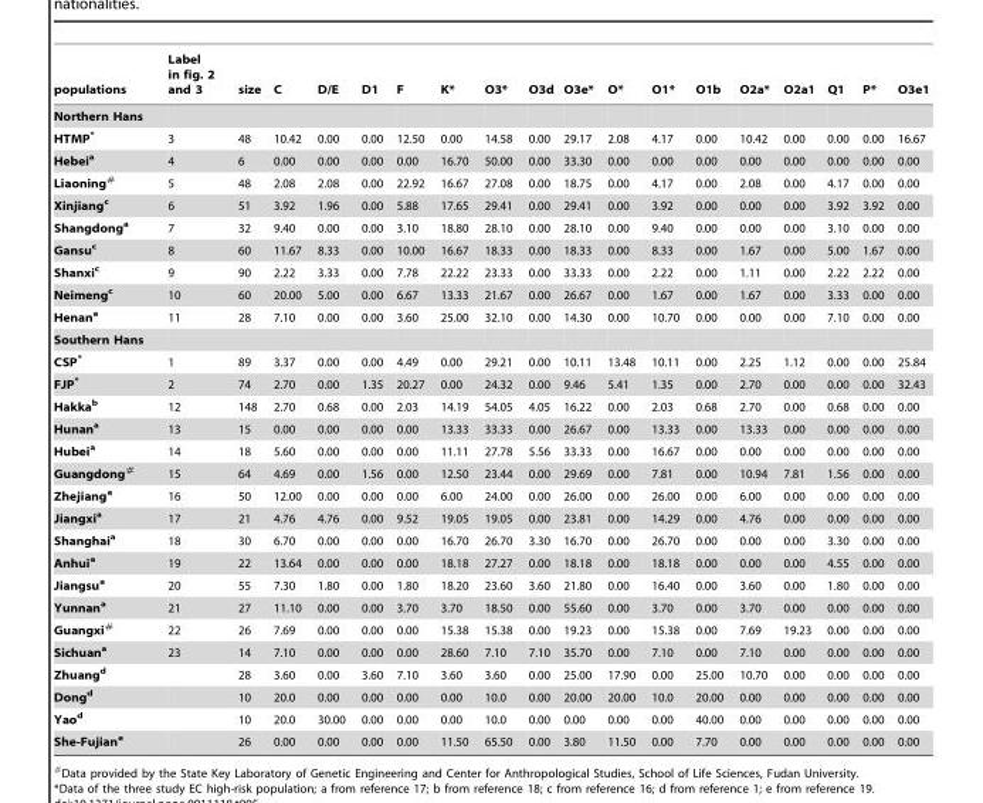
<table><thead><tr><td>populations</td><td>Label in fig. 2 and 3</td><td>size</td><td>C</td><td>D/E</td><td>D1</td><td>F</td><td>K*</td><td>O3*</td><td>O3d</td><td>O3e*</td><td>O*</td><td>O1*</td><td>O1b</td><td>O2a*</td><td>O2a1</td><td>Q1</td><td>P*</td><td>O3e1</td></tr></thead><tbody><tr><td colspan="19">Northern Hans</td></tr><tr><td>HTMP*</td><td>3</td><td>48</td><td>10.42</td><td>0.00</td><td>0.00</td><td>12.50</td><td>0.00</td><td>14.58</td><td>0.00</td><td>29.17</td><td>2.08</td><td>4.17</td><td>0.00</td><td>10.42</td><td>0.00</td><td>0.00</td><td>0.00</td><td>16.67</td></tr><tr><td>Hebei<sup>a</sup></td><td>4</td><td>6</td><td>0.00</td><td>0.00</td><td>0.00</td><td>0.00</td><td>16.70</td><td>50.00</td><td>0.00</td><td>33.30</td><td>0.00</td><td>0.00</td><td>0.00</td><td>0.00</td><td>0.00</td><td>0.00</td><td>0.00</td><td>0.00</td></tr><tr><td>Liaoning#</td><td>5</td><td>48</td><td>2.08</td><td>2.08</td><td>0.00</td><td>22.92</td><td>16.67</td><td>27.08</td><td>0.00</td><td>18.75</td><td>0.00</td><td>4.17</td><td>0.00</td><td>2.08</td><td>0.00</td><td>4.17</td><td>0.00</td><td>0.00</td></tr><tr><td>Xinjiang<sup>c</sup></td><td>6</td><td>51</td><td>3.92</td><td>1.96</td><td>0.00</td><td>5.88</td><td>17.65</td><td>29.41</td><td>0.00</td><td>29.41</td><td>0.00</td><td>3.92</td><td>0.00</td><td>0.00</td><td>0.00</td><td>3.92</td><td>3.92</td><td>0.00</td></tr><tr><td>Shangdong<sup>a</sup></td><td>7</td><td>32</td><td>9.40</td><td>0.00</td><td>0.00</td><td>3.10</td><td>18.80</td><td>28.10</td><td>0.00</td><td>28.10</td><td>0.00</td><td>9.40</td><td>0.00</td><td>0.00</td><td>0.00</td><td>3.10</td><td>0.00</td><td>0.00</td></tr><tr><td>Gansu<sup>c</sup></td><td>8</td><td>60</td><td>11.67</td><td>8.33</td><td>0.00</td><td>10.00</td><td>16.67</td><td>18.33</td><td>0.00</td><td>18.33</td><td>0.00</td><td>8.33</td><td>0.00</td><td>1.67</td><td>0.00</td><td>5.00</td><td>1.67</td><td>0.00</td></tr><tr><td>Shanxi<sup>c</sup></td><td>9</td><td>90</td><td>2.22</td><td>3.33</td><td>0.00</td><td>7.78</td><td>22.22</td><td>23.33</td><td>0.00</td><td>33.33</td><td>0.00</td><td>2.22</td><td>0.00</td><td>1.11</td><td>0.00</td><td>2.22</td><td>2.22</td><td>0.00</td></tr><tr><td>Neimeng<sup>c</sup></td><td>10</td><td>60</td><td>20.00</td><td>5.00</td><td>0.00</td><td>6.67</td><td>13.33</td><td>21.67</td><td>0.00</td><td>26.67</td><td>0.00</td><td>1.67</td><td>0.00</td><td>1.67</td><td>0.00</td><td>3.33</td><td>0.00</td><td>0.00</td></tr><tr><td>Henan<sup>a</sup></td><td>11</td><td>28</td><td>7.10</td><td>0.00</td><td>0.00</td><td>3.60</td><td>25.00</td><td>32.10</td><td>0.00</td><td>14.30</td><td>0.00</td><td>10.70</td><td>0.00</td><td>0.00</td><td>0.00</td><td>7.10</td><td>0.00</td><td>0.00</td></tr><tr><td colspan="19">Southern Hans</td></tr><tr><td>CSP*</td><td>1</td><td>89</td><td>3.37</td><td>0.00</td><td>0.00</td><td>4.49</td><td>0.00</td><td>29.21</td><td>0.00</td><td>10.11</td><td>13.48</td><td>10.11</td><td>0.00</td><td>2.25</td><td>1.12</td><td>0.00</td><td>0.00</td><td>25.84</td></tr><tr><td>FJP*</td><td>2</td><td>74</td><td>2.70</td><td>0.00</td><td>1.35</td><td>20.27</td><td>0.00</td><td>24.32</td><td>0.00</td><td>9.46</td><td>5.41</td><td>1.35</td><td>0.00</td><td>2.70</td><td>0.00</td><td>0.00</td><td>0.00</td><td>32.43</td></tr><tr><td>Hakka<sup>b</sup></td><td>12</td><td>148</td><td>2.70</td><td>0.68</td><td>0.00</td><td>2.03</td><td>14.19</td><td>54.05</td><td>4.05</td><td>16.22</td><td>0.00</td><td>2.03</td><td>0.68</td><td>2.70</td><td>0.00</td><td>0.68</td><td>0.00</td><td>0.00</td></tr><tr><td>Hunan<sup>a</sup></td><td>13</td><td>15</td><td>0.00</td><td>0.00</td><td>0.00</td><td>0.00</td><td>13.33</td><td>33.33</td><td>0.00</td><td>26.67</td><td>0.00</td><td>13.33</td><td>0.00</td><td>13.33</td><td>0.00</td><td>0.00</td><td>0.00</td><td>0.00</td></tr><tr><td>Hubei<sup>a</sup></td><td>14</td><td>18</td><td>5.60</td><td>0.00</td><td>0.00</td><td>0.00</td><td>11.11</td><td>27.78</td><td>5.56</td><td>33.33</td><td>0.00</td><td>16.67</td><td>0.00</td><td>0.00</td><td>0.00</td><td>0.00</td><td>0.00</td><td>0.00</td></tr><tr><td>Guangdong#</td><td>15</td><td>64</td><td>4.69</td><td>0.00</td><td>1.56</td><td>0.00</td><td>12.50</td><td>23.44</td><td>0.00</td><td>29.69</td><td>0.00</td><td>7.81</td><td>0.00</td><td>10.94</td><td>7.81</td><td>1.56</td><td>0.00</td><td>0.00</td></tr><tr><td>Zhejiang<sup>a</sup></td><td>16</td><td>50</td><td>12.00</td><td>0.00</td><td>0.00</td><td>0.00</td><td>6.00</td><td>24.00</td><td>0.00</td><td>26.00</td><td>0.00</td><td>26.00</td><td>0.00</td><td>6.00</td><td>0.00</td><td>0.00</td><td>0.00</td><td>0.00</td></tr><tr><td>Jiangxi<sup>a</sup></td><td>17</td><td>21</td><td>4.76</td><td>4.76</td><td>0.00</td><td>9.52</td><td>19.05</td><td>19.05</td><td>0.00</td><td>23.81</td><td>0.00</td><td>14.29</td><td>0.00</td><td>4.76</td><td>0.00</td><td>0.00</td><td>0.00</td><td>0.00</td></tr><tr><td>Shanghai<sup>a</sup></td><td>18</td><td>30</td><td>6.70</td><td>0.00</td><td>0.00</td><td>0.00</td><td>16.70</td><td>26.70</td><td>3.30</td><td>16.70</td><td>0.00</td><td>26.70</td><td>0.00</td><td>0.00</td><td>0.00</td><td>3.30</td><td>0.00</td><td>0.00</td></tr><tr><td>Anhui<sup>a</sup></td><td>19</td><td>22</td><td>13.64</td><td>0.00</td><td>0.00</td><td>0.00</td><td>18.18</td><td>27.27</td><td>0.00</td><td>18.18</td><td>0.00</td><td>18.18</td><td>0.00</td><td>0.00</td><td>0.00</td><td>4.55</td><td>0.00</td><td>0.00</td></tr><tr><td>Jiangsu<sup>a</sup></td><td>20</td><td>55</td><td>7.30</td><td>1.80</td><td>0.00</td><td>1.80</td><td>18.20</td><td>23.60</td><td>3.60</td><td>21.80</td><td>0.00</td><td>16.40</td><td>0.00</td><td>3.60</td><td>0.00</td><td>1.80</td><td>0.00</td><td>0.00</td></tr><tr><td>Yunnan<sup>a</sup></td><td>21</td><td>27</td><td>11.10</td><td>0.00</td><td>0.00</td><td>3.70</td><td>3.70</td><td>18.50</td><td>0.00</td><td>55.60</td><td>0.00</td><td>3.70</td><td>0.00</td><td>3.70</td><td>0.00</td><td>0.00</td><td>0.00</td><td>0.00</td></tr><tr><td>Guangxi#</td><td>22</td><td>26</td><td>7.69</td><td>0.00</td><td>0.00</td><td>0.00</td><td>15.38</td><td>15.38</td><td>0.00</td><td>19.23</td><td>0.00</td><td>15.38</td><td>0.00</td><td>7.69</td><td>19.23</td><td>0.00</td><td>0.00</td><td>0.00</td></tr><tr><td>Sichuan<sup>a</sup></td><td>23</td><td>14</td><td>7.10</td><td>0.00</td><td>0.00</td><td>0.00</td><td>28.60</td><td>7.10</td><td>7.10</td><td>35.70</td><td>0.00</td><td>7.10</td><td>0.00</td><td>7.10</td><td>0.00</td><td>0.00</td><td>0.00</td><td>0.00</td></tr><tr><td>Zhuang<sup>d</sup></td><td></td><td>28</td><td>3.60</td><td>0.00</td><td>3.60</td><td>7.10</td><td>3.60</td><td>3.60</td><td>0.00</td><td>25.00</td><td>17.90</td><td>0.00</td><td>25.00</td><td>10.70</td><td>0.00</td><td>0.00</td><td>0.00</td><td>0.00</td></tr><tr><td>Dong<sup>d</sup></td><td></td><td>10</td><td>20.0</td><td>0.00</td><td>0.00</td><td>0.00</td><td>0.00</td><td>10.0</td><td>0.00</td><td>20.00</td><td>20.00</td><td>10.0</td><td>20.00</td><td>0.00</td><td>0.00</td><td>0.00</td><td>0.00</td><td>0.00</td></tr><tr><td>Yao<sup>d</sup></td><td></td><td>10</td><td>20.0</td><td>30.00</td><td>0.00</td><td>0.00</td><td>0.00</td><td>10.0</td><td>0.00</td><td>0.00</td><td>0.00</td><td>0.00</td><td>40.00</td><td>0.00</td><td>0.00</td><td>0.00</td><td>0.00</td><td>0.00</td></tr><tr><td>She-Fujian<sup>e</sup></td><td></td><td>26</td><td>0.00</td><td>0.00</td><td>0.00</td><td>0.00</td><td>11.50</td><td>65.50</td><td>0.00</td><td>3.80</td><td>11.50</td><td>0.00</td><td>7.70</td><td>0.00</td><td>0.00</td><td>0.00</td><td>0.00</td><td>0.00</td></tr></tbody></table>